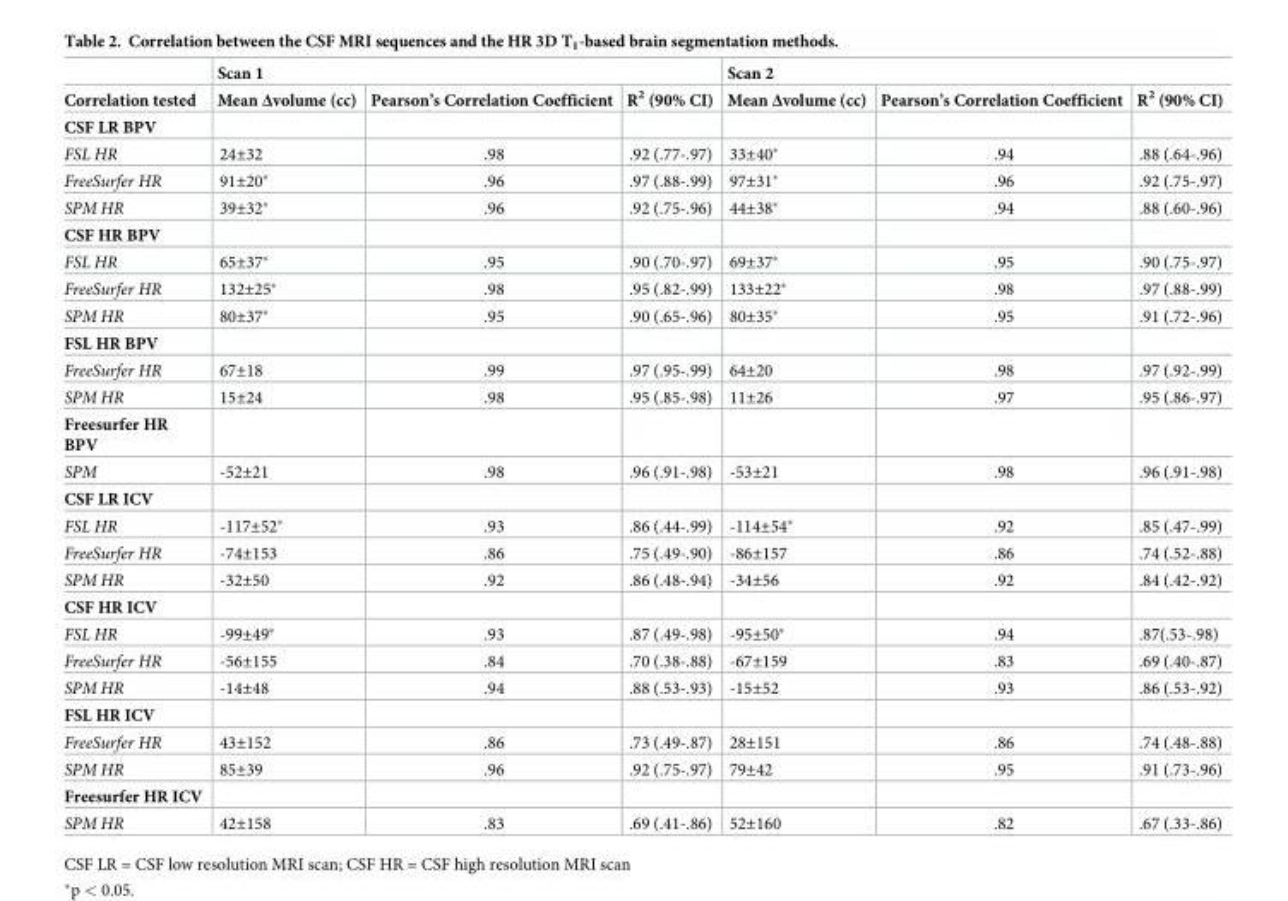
<table><thead><tr><td rowspan="2">Correlation tested</td><td colspan="3">Scan 1</td><td colspan="3">Scan 2</td></tr><tr><td>Mean Δvolume (cc)</td><td>Pearson’s Correlation Coefficient</td><td>R<sup>2</sup> (90% CI)</td><td>Mean Δvolume (cc)</td><td>Pearson’s Correlation Coefficient</td><td>R<sup>2</sup> (90% CI)</td></tr></thead><tbody><tr><td colspan="7">CSF LR BPV</td></tr><tr><td>FSL HR</td><td>24±32</td><td>.98</td><td>.92 (.77-.97)</td><td>33±40*</td><td>.94</td><td>.88 (.64-.96)</td></tr><tr><td>FreeSurfer HR</td><td>91±20*</td><td>.96</td><td>.97 (.88-.99)</td><td>97±31*</td><td>.96</td><td>.92 (.75-.97)</td></tr><tr><td>SPM HR</td><td>39±32*</td><td>.96</td><td>.92 (.75-.96)</td><td>44±38*</td><td>.94</td><td>.88 (.60-.96)</td></tr><tr><td colspan="7">CSF HR BPV</td></tr><tr><td>FSL HR</td><td>65±37*</td><td>.95</td><td>.90 (.70-.97)</td><td>69±37*</td><td>.95</td><td>.90 (.75-.97)</td></tr><tr><td>FreeSurfer HR</td><td>132±25*</td><td>.98</td><td>.95 (.82-.99)</td><td>133±22*</td><td>.98</td><td>.97 (.88-.99)</td></tr><tr><td>SPM HR</td><td>80±37*</td><td>.95</td><td>.90 (.65-.96)</td><td>80±35*</td><td>.95</td><td>.91 (.72-.96)</td></tr><tr><td colspan="7">FSL HR BPV</td></tr><tr><td>FreeSurfer HR</td><td>67±18</td><td>.99</td><td>.97 (.95-.99)</td><td>64±20</td><td>.98</td><td>.97 (.92-.99)</td></tr><tr><td>SPM HR</td><td>15±24</td><td>.98</td><td>.95 (.85-.98)</td><td>11±26</td><td>.97</td><td>.95 (.86-.97)</td></tr><tr><td colspan="7">Freesurfer HR BPV</td></tr><tr><td>SPM</td><td>-52±21</td><td>.98</td><td>.96 (.91-.98)</td><td>-53±21</td><td>.98</td><td>.96 (.91-.98)</td></tr><tr><td colspan="7">CSF LR ICV</td></tr><tr><td>FSL HR</td><td>-117±52*</td><td>.93</td><td>.86 (.44-.99)</td><td>-114±54*</td><td>.92</td><td>.85 (.47-.99)</td></tr><tr><td>FreeSurfer HR</td><td>-74±153</td><td>.86</td><td>.75 (.49-.90)</td><td>-86±157</td><td>.86</td><td>.74 (.52-.88)</td></tr><tr><td>SPM HR</td><td>-32±50</td><td>.92</td><td>.86 (.48-.94)</td><td>-34±56</td><td>.92</td><td>.84 (.42-.92)</td></tr><tr><td colspan="7">CSF HR ICV</td></tr><tr><td>FSL HR</td><td>-99±49*</td><td>.93</td><td>.87 (.49-.98)</td><td>-95±50*</td><td>.94</td><td>.87(.53-.98)</td></tr><tr><td>FreeSurfer HR</td><td>-56±155</td><td>.84</td><td>.70 (.38-.88)</td><td>-67±159</td><td>.83</td><td>.69 (.40-.87)</td></tr><tr><td>SPM HR</td><td>-14±48</td><td>.94</td><td>.88 (.53-.93)</td><td>-15±52</td><td>.93</td><td>.86 (.53-.92)</td></tr><tr><td colspan="7">FSL HR ICV</td></tr><tr><td>FreeSurfer HR</td><td>43±152</td><td>.86</td><td>.73 (.49-.87)</td><td>28±151</td><td>.86</td><td>.74 (.48-.88)</td></tr><tr><td>SPM HR</td><td>85±39</td><td>.96</td><td>.92 (.75-.97)</td><td>79±42</td><td>.95</td><td>.91 (.73-.96)</td></tr><tr><td colspan="7">Freesurfer HR ICV</td></tr><tr><td>SPM HR</td><td>42±158</td><td>.83</td><td>.69 (.41-.86)</td><td>52±160</td><td>.82</td><td>.67 (.33-.86)</td></tr></tbody></table>